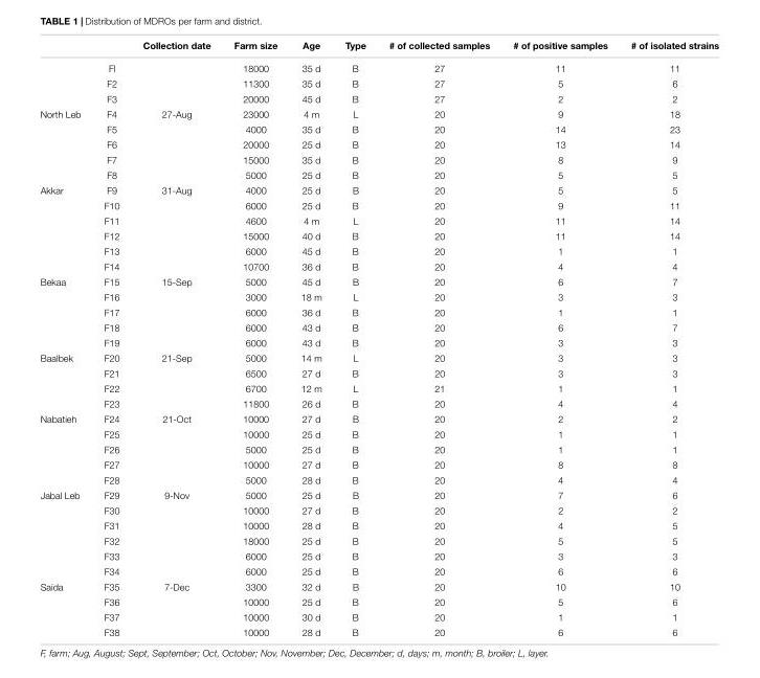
<table><thead><tr><td></td><td></td><td>Collection date</td><td>Farm size</td><td>Age</td><td>Type</td><td># of collected samples</td><td># of positive samples</td><td># of isolated strains</td></tr></thead><tbody><tr><td></td><td>Fl</td><td></td><td>18000</td><td>35 d</td><td>B</td><td>27</td><td>11</td><td>11</td></tr><tr><td></td><td>F2</td><td></td><td>11300</td><td>35 d</td><td>B</td><td>27</td><td>5</td><td>6</td></tr><tr><td></td><td>F3</td><td></td><td>20000</td><td>45 d</td><td>B</td><td>27</td><td>2</td><td>2</td></tr><tr><td rowspan="5">North Leb</td><td>F4</td><td>27-Aug</td><td>23000</td><td>4 m</td><td>L</td><td>20</td><td>9</td><td>18</td></tr><tr><td>F5</td><td></td><td>4000</td><td>35 d</td><td>B</td><td>20</td><td>14</td><td>23</td></tr><tr><td>F6</td><td></td><td>20000</td><td>25 d</td><td>B</td><td>20</td><td>13</td><td>14</td></tr><tr><td>F7</td><td></td><td>15000</td><td>35 d</td><td>B</td><td>20</td><td>8</td><td>9</td></tr><tr><td>F8</td><td></td><td>5000</td><td>25 d</td><td>B</td><td>20</td><td>5</td><td>5</td></tr><tr><td rowspan="6">Akkar</td><td>F9</td><td>31-Aug</td><td>4000</td><td>25 d</td><td>B</td><td>20</td><td>5</td><td>5</td></tr><tr><td>F10</td><td></td><td>6000</td><td>25 d</td><td>B</td><td>20</td><td>9</td><td>11</td></tr><tr><td>F11</td><td></td><td>4600</td><td>4 m</td><td>L</td><td>20</td><td>11</td><td>14</td></tr><tr><td>F12</td><td></td><td>15000</td><td>40 d</td><td>B</td><td>20</td><td>11</td><td>14</td></tr><tr><td>F13</td><td></td><td>6000</td><td>45 d</td><td>B</td><td>20</td><td>1</td><td>1</td></tr><tr><td>F14</td><td></td><td>10700</td><td>36 d</td><td>B</td><td>20</td><td>4</td><td>4</td></tr><tr><td rowspan="5">Bekaa</td><td>F15</td><td>15-Sep</td><td>5000</td><td>45 d</td><td>B</td><td>20</td><td>6</td><td>7</td></tr><tr><td>F16</td><td></td><td>3000</td><td>18 m</td><td>L</td><td>20</td><td>3</td><td>3</td></tr><tr><td>F17</td><td></td><td>6000</td><td>36 d</td><td>B</td><td>20</td><td>1</td><td>1</td></tr><tr><td>F18</td><td></td><td>6000</td><td>43 d</td><td>B</td><td>20</td><td>6</td><td>7</td></tr><tr><td>F19</td><td></td><td>6000</td><td>43 d</td><td>B</td><td>20</td><td>3</td><td>3</td></tr><tr><td rowspan="4">Baalbek</td><td>F20</td><td>21-Sep</td><td>5000</td><td>14 m</td><td>L</td><td>20</td><td>3</td><td>3</td></tr><tr><td>F21</td><td></td><td>6500</td><td>27 d</td><td>B</td><td>20</td><td>3</td><td>3</td></tr><tr><td>F22</td><td></td><td>6700</td><td>12 m</td><td>L</td><td>21</td><td>1</td><td>1</td></tr><tr><td>F23</td><td></td><td>11800</td><td>26 d</td><td>B</td><td>20</td><td>4</td><td>4</td></tr><tr><td rowspan="5">Nabatieh</td><td>F24</td><td>21-Oct</td><td>10000</td><td>27 d</td><td>B</td><td>20</td><td>2</td><td>2</td></tr><tr><td>F25</td><td></td><td>10000</td><td>25 d</td><td>B</td><td>20</td><td>1</td><td>1</td></tr><tr><td>F26</td><td></td><td>5000</td><td>25 d</td><td>B</td><td>20</td><td>1</td><td>1</td></tr><tr><td>F27</td><td></td><td>10000</td><td>27 d</td><td>B</td><td>20</td><td>8</td><td>8</td></tr><tr><td>F28</td><td></td><td>5000</td><td>28 d</td><td>B</td><td>20</td><td>4</td><td>4</td></tr><tr><td rowspan="6">Jabal Leb</td><td>F29</td><td>9-Nov</td><td>5000</td><td>25 d</td><td>B</td><td>20</td><td>7</td><td>6</td></tr><tr><td>F30</td><td></td><td>10000</td><td>27 d</td><td>B</td><td>20</td><td>2</td><td>2</td></tr><tr><td>F31</td><td></td><td>10000</td><td>28 d</td><td>B</td><td>20</td><td>4</td><td>5</td></tr><tr><td>F32</td><td></td><td>18000</td><td>25 d</td><td>B</td><td>20</td><td>5</td><td>5</td></tr><tr><td>F33</td><td></td><td>6000</td><td>25 d</td><td>B</td><td>20</td><td>3</td><td>3</td></tr><tr><td>F34</td><td></td><td>6000</td><td>25 d</td><td>B</td><td>20</td><td>6</td><td>6</td></tr><tr><td rowspan="4">Saida</td><td>F35</td><td>7-Dec</td><td>3300</td><td>32 d</td><td>B</td><td>20</td><td>10</td><td>10</td></tr><tr><td>F36</td><td></td><td>10000</td><td>25 d</td><td>B</td><td>20</td><td>5</td><td>6</td></tr><tr><td>F37</td><td></td><td>10000</td><td>30 d</td><td>B</td><td>20</td><td>1</td><td>1</td></tr><tr><td>F38</td><td></td><td>10000</td><td>28 d</td><td>B</td><td>20</td><td>6</td><td>6</td></tr></tbody></table>